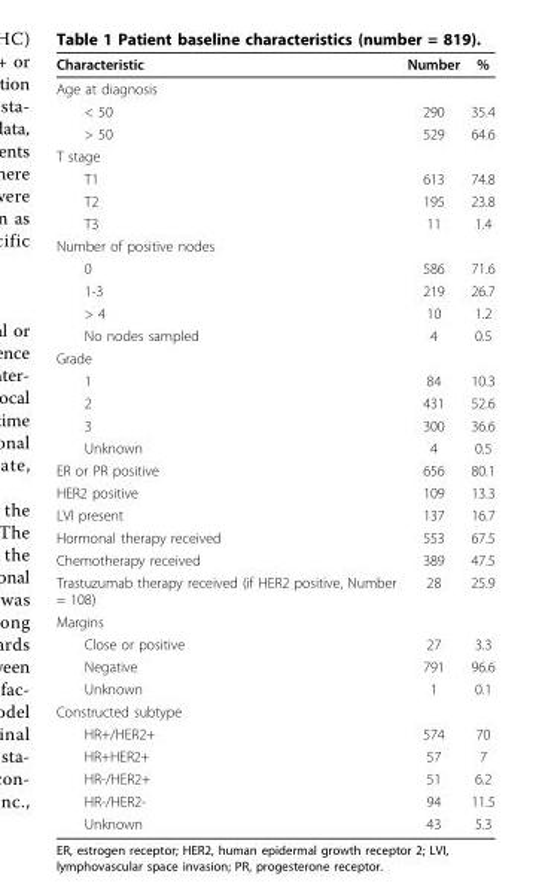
<table><thead><tr><td>Characteristic</td><td>Number</td><td>%</td></tr></thead><tbody><tr><td colspan="3">Age at diagnosis</td></tr><tr><td>&lt; 50</td><td>290</td><td>35.4</td></tr><tr><td>&gt; 50</td><td>529</td><td>64.6</td></tr><tr><td colspan="3">T stage</td></tr><tr><td>T1</td><td>613</td><td>74.8</td></tr><tr><td>T2</td><td>195</td><td>23.8</td></tr><tr><td>T3</td><td>11</td><td>1.4</td></tr><tr><td colspan="3">Number of positive nodes</td></tr><tr><td>0</td><td>586</td><td>71.6</td></tr><tr><td>1-3</td><td>219</td><td>26.7</td></tr><tr><td>&gt; 4</td><td>10</td><td>1.2</td></tr><tr><td>No nodes sampled</td><td>4</td><td>0.5</td></tr><tr><td colspan="3">Grade</td></tr><tr><td>1</td><td>84</td><td>10.3</td></tr><tr><td>2</td><td>431</td><td>52.6</td></tr><tr><td>3</td><td>300</td><td>36.6</td></tr><tr><td>Unknown</td><td>4</td><td>0.5</td></tr><tr><td>ER or PR positive</td><td>656</td><td>80.1</td></tr><tr><td>HER2 positive</td><td>109</td><td>13.3</td></tr><tr><td>LVI present</td><td>137</td><td>16.7</td></tr><tr><td>Hormonal therapy received</td><td>553</td><td>67.5</td></tr><tr><td>Chemotherapy received</td><td>389</td><td>47.5</td></tr><tr><td>Trastuzumab therapy received (if HER2 positive, Number = 108)</td><td>28</td><td>25.9</td></tr><tr><td colspan="3">Margins</td></tr><tr><td>Close or positive</td><td>27</td><td>3.3</td></tr><tr><td>Negative</td><td>791</td><td>96.6</td></tr><tr><td>Unknown</td><td>1</td><td>0.1</td></tr><tr><td colspan="3">Constructed subtype</td></tr><tr><td>HR+/HER2+</td><td>574</td><td>70</td></tr><tr><td>HR+HER2+</td><td>57</td><td>7</td></tr><tr><td>HR-/HER2+</td><td>51</td><td>6.2</td></tr><tr><td>HR-/HER2-</td><td>94</td><td>11.5</td></tr><tr><td>Unknown</td><td>43</td><td>5.3</td></tr></tbody></table>